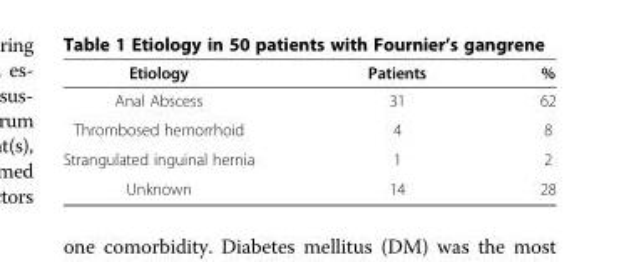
<table><thead><tr><td>Etiology</td><td>Patients</td><td>%</td></tr></thead><tbody><tr><td>Anal Abscess</td><td>31</td><td>62</td></tr><tr><td>Thrombosed hemorrhoid</td><td>4</td><td>8</td></tr><tr><td>Strangulated inguinal hernia</td><td>1</td><td>2</td></tr><tr><td>Unknown</td><td>14</td><td>28</td></tr></tbody></table>